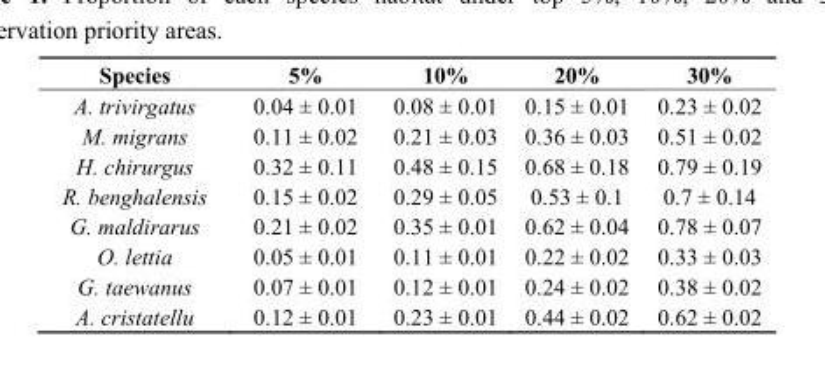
<table><thead><tr><td>Species</td><td>5%</td><td>10%</td><td>20%</td><td>30%</td></tr></thead><tbody><tr><td>A. trivirgatus</td><td>0.04 ± 0.01</td><td>0.08 ± 0.01</td><td>0.15 ± 0.01</td><td>0.23 ± 0.02</td></tr><tr><td>M. migrans</td><td>0.11 ± 0.02</td><td>0.21 ± 0.03</td><td>0.36 ± 0.03</td><td>0.51 ± 0.02</td></tr><tr><td>H. chirurgus</td><td>0.32 ± 0.11</td><td>0.48 ± 0.15</td><td>0.68 ± 0.18</td><td>0.79 ± 0.19</td></tr><tr><td>R. benghalensis</td><td>0.15 ± 0.02</td><td>0.29 ± 0.05</td><td>0.53 ± 0.1</td><td>0.7 ± 0.14</td></tr><tr><td>G. maldirarus</td><td>0.21 ± 0.02</td><td>0.35 ± 0.01</td><td>0.62 ± 0.04</td><td>0.78 ± 0.07</td></tr><tr><td>O. lettia</td><td>0.05 ± 0.01</td><td>0.11 ± 0.01</td><td>0.22 ± 0.02</td><td>0.33 ± 0.03</td></tr><tr><td>G. taewanus</td><td>0.07 ± 0.01</td><td>0.12 ± 0.01</td><td>0.24 ± 0.02</td><td>0.38 ± 0.02</td></tr><tr><td>A. cristatellu</td><td>0.12 ± 0.01</td><td>0.23 ± 0.01</td><td>0.44 ± 0.02</td><td>0.62 ± 0.02</td></tr></tbody></table>